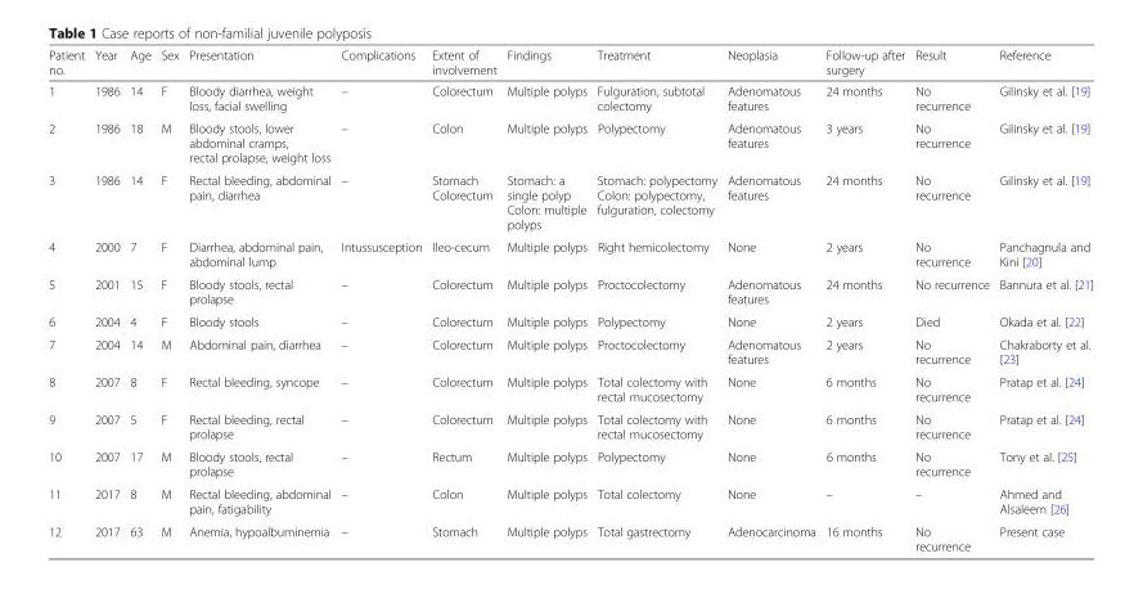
<table><thead><tr><td>Patient no.</td><td>Year</td><td>Age</td><td>Sex</td><td>Presentation</td><td>Complications</td><td>Extent of involvement</td><td>Findings</td><td>Treatment</td><td>Neoplasia</td><td>Follow-up after surgery</td><td>Result</td><td>Reference</td></tr></thead><tbody><tr><td>1</td><td>1986</td><td>14</td><td>F</td><td>Bloody diarrhea, weight loss, facial swelling</td><td>–</td><td>Colorectum</td><td>Multiple polyps</td><td>Fulguration, subtotal colectomy</td><td>Adenomatous features</td><td>24 months</td><td>No recurrence</td><td>Gilinsky et al. [19]</td></tr><tr><td>2</td><td>1986</td><td>18</td><td>M</td><td>Bloody stools, lower abdominal cramps, rectal prolapse, weight loss</td><td>–</td><td>Colon</td><td>Multiple polyps</td><td>Polypectomy</td><td>Adenomatous features</td><td>3 years</td><td>No recurrence</td><td>Gilinsky et al. [19]</td></tr><tr><td>3</td><td>1986</td><td>14</td><td>F</td><td>Rectal bleeding, abdominal pain, diarrhea</td><td>–</td><td>Stomach Colorectum</td><td>Stomach: a single polyp Colon: multiple polyps</td><td>Stomach: polypectomy Colon: polypectomy, fulguration, colectomy</td><td>Adenomatous features</td><td>24 months</td><td>No recurrence</td><td>Gilinsky et al. [19]</td></tr><tr><td>4</td><td>2000</td><td>7</td><td>F</td><td>Diarrhea, abdominal pain, abdominal lump</td><td>Intussusception</td><td>Ileo-cecum</td><td>Multiple polyps</td><td>Right hemicolectomy</td><td>None</td><td>2 years</td><td>No recurrence</td><td>Panchagnula and Kini [20]</td></tr><tr><td>5</td><td>2001</td><td>15</td><td>F</td><td>Bloody stools, rectal prolapse</td><td>–</td><td>Colorectum</td><td>Multiple polyps</td><td>Proctocolectomy</td><td>Adenomatous features</td><td>24 months</td><td>No recurrence</td><td>Bannura et al. [21]</td></tr><tr><td>6</td><td>2004</td><td>4</td><td>F</td><td>Bloody stools</td><td>–</td><td>Colorectum</td><td>Multiple polyps</td><td>Polypectomy</td><td>None</td><td>2 years</td><td>Died</td><td>Okada et al. [22]</td></tr><tr><td>7</td><td>2004</td><td>14</td><td>M</td><td>Abdominal pain, diarrhea</td><td>–</td><td>Colorectum</td><td>Multiple polyps</td><td>Proctocolectomy</td><td>Adenomatous features</td><td>2 years</td><td>No recurrence</td><td>Chakraborty et al. [23]</td></tr><tr><td>8</td><td>2007</td><td>8</td><td>F</td><td>Rectal bleeding, syncope</td><td>–</td><td>Colorectum</td><td>Multiple polyps</td><td>Total colectomy with rectal mucosectomy</td><td>None</td><td>6 months</td><td>No recurrence</td><td>Pratap et al. [24]</td></tr><tr><td>9</td><td>2007</td><td>5</td><td>F</td><td>Rectal bleeding, rectal prolapse</td><td>–</td><td>Colorectum</td><td>Multiple polyps</td><td>Total colectomy with rectal mucosectomy</td><td>None</td><td>6 months</td><td>No recurrence</td><td>Pratap et al. [24]</td></tr><tr><td>10</td><td>2007</td><td>17</td><td>M</td><td>Bloody stools, rectal prolapse</td><td>–</td><td>Rectum</td><td>Multiple polyps</td><td>Polypectomy</td><td>None</td><td>6 months</td><td>No recurrence</td><td>Tony et al. [25]</td></tr><tr><td>11</td><td>2017</td><td>8</td><td>M</td><td>Rectal bleeding, abdominal pain, fatigability</td><td>–</td><td>Colon</td><td>Multiple polyps</td><td>Total colectomy</td><td>None</td><td>–</td><td>–</td><td>Ahmed and Alsaleem [26]</td></tr><tr><td>12</td><td>2017</td><td>63</td><td>M</td><td>Anemia, hypoalbuminemia</td><td>–</td><td>Stomach</td><td>Multiple polyps</td><td>Total gastrectomy</td><td>Adenocarcinoma</td><td>16 months</td><td>No recurrence</td><td>Present case</td></tr></tbody></table>